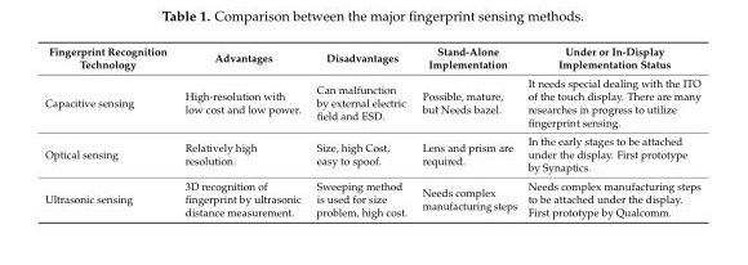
<table><thead><tr><td>Fingerprint Recognition Technology</td><td>Advantages</td><td>Disadvantages</td><td>Stand-Alone Implementation</td><td>Under or In-Display Implementation Status</td></tr></thead><tbody><tr><td>Capacitive sensing</td><td>High-resolution with low cost and low power.</td><td>Can malfunction by external electric field and ESD.</td><td>Possible, mature, but Needs bazel.</td><td>It needs special dealing with the ITO of the touch display. There are many researches in progress to utilize fingerprint sensing.</td></tr><tr><td>Optical sensing</td><td>Relatively high resolution.</td><td>Size, high Cost, easy to spoof.</td><td>Lens and prism are required.</td><td>In the early stages to be attached under the display. First prototype by Synaptics.</td></tr><tr><td>Ultrasonic sensing</td><td>3D recognition of fingerprint by ultrasonic distance measurement.</td><td>Sweeping method is used for size problem, high cost.</td><td>Needs complex manufacturing steps</td><td>Needs complex manufacturing steps to be attached under the display. First prototype by Qualcomm.</td></tr></tbody></table>